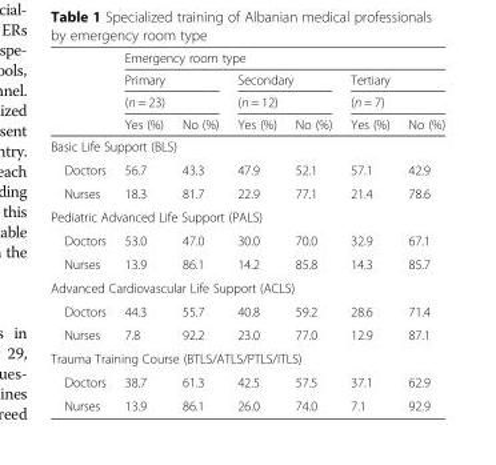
<table><thead><tr><td rowspan="4"></td><td colspan="6">Emergency room type</td></tr><tr><td rowspan="2" colspan="2">Primary (n = 23)</td><td rowspan="2" colspan="2">Secondary (n = 12)</td><td rowspan="2" colspan="2">Tertiary (n = 7)</td></tr><tr></tr><tr><td>Yes (%)</td><td>No (%)</td><td>Yes (%)</td><td>No (%)</td><td>Yes (%)</td><td>No (%)</td></tr></thead><tbody><tr><td colspan="7">Basic Life Support (BLS)</td></tr><tr><td>Doctors</td><td>56.7</td><td>43.3</td><td>47.9</td><td>52.1</td><td>57.1</td><td>42.9</td></tr><tr><td>Nurses</td><td>18.3</td><td>81.7</td><td>22.9</td><td>77.1</td><td>21.4</td><td>78.6</td></tr><tr><td colspan="7">Pediatric Advanced Life Support (PALS)</td></tr><tr><td>Doctors</td><td>53.0</td><td>47.0</td><td>30.0</td><td>70.0</td><td>32.9</td><td>67.1</td></tr><tr><td>Nurses</td><td>13.9</td><td>86.1</td><td>14.2</td><td>85.8</td><td>14.3</td><td>85.7</td></tr><tr><td colspan="7">Advanced Cardiovascular Life Support (ACLS)</td></tr><tr><td>Doctors</td><td>44.3</td><td>55.7</td><td>40.8</td><td>59.2</td><td>28.6</td><td>71.4</td></tr><tr><td>Nurses</td><td>7.8</td><td>92.2</td><td>23.0</td><td>77.0</td><td>12.9</td><td>87.1</td></tr><tr><td colspan="7">Trauma Training Course (BTLS/ATLS/PTLS/ITLS)</td></tr><tr><td>Doctors</td><td>38.7</td><td>61.3</td><td>42.5</td><td>57.5</td><td>37.1</td><td>62.9</td></tr><tr><td>Nurses</td><td>13.9</td><td>86.1</td><td>26.0</td><td>74.0</td><td>7.1</td><td>92.9</td></tr></tbody></table>